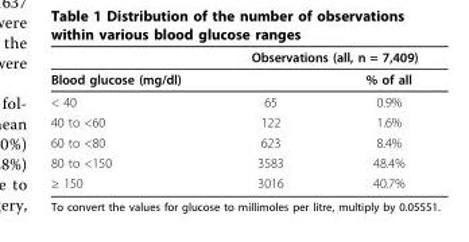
<table><thead><tr><td rowspan="2">Blood glucose (mg/dl)</td><td colspan="2">Observations (all, n = 7,409)</td></tr><tr><td></td><td>% of all</td></tr></thead><tbody><tr><td>&lt; 40</td><td>65</td><td>0.9%</td></tr><tr><td>40 to &lt;60</td><td>122</td><td>1.6%</td></tr><tr><td>60 to &lt;80</td><td>623</td><td>8.4%</td></tr><tr><td>80 to &lt;150</td><td>3583</td><td>48.4%</td></tr><tr><td>≥ 150</td><td>3016</td><td>40.7%</td></tr></tbody></table>